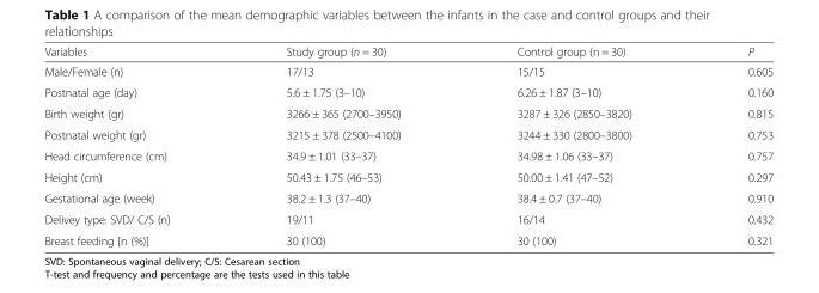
<table><thead><tr><td>Variables</td><td>Study group (n = 30)</td><td>Control group (n = 30)</td><td>P</td></tr></thead><tbody><tr><td>Male/Female (n)</td><td>17/13</td><td>15/15</td><td>0.605</td></tr><tr><td>Postnatal age (day)</td><td>5.6 ± 1.75 (3–10)</td><td>6.26 ± 1.87 (3–10)</td><td>0.160</td></tr><tr><td>Birth weight (gr)</td><td>3266 ± 365 (2700–3950)</td><td>3287 ± 326 (2850–3820)</td><td>0.815</td></tr><tr><td>Postnatal weight (gr)</td><td>3215 ± 378 (2500–4100)</td><td>3244 ± 330 (2800–3800)</td><td>0.753</td></tr><tr><td>Head circumference (cm)</td><td>34.9 ± 1.01 (33–37)</td><td>34.98 ± 1.06 (33–37)</td><td>0.757</td></tr><tr><td>Height (cm)</td><td>50.43 ± 1.75 (46–53)</td><td>50.00 ± 1.41 (47–52)</td><td>0.297</td></tr><tr><td>Gestational age (week)</td><td>38.2 ± 1.3 (37–40)</td><td>38.4 ± 0.7 (37–40)</td><td>0.910</td></tr><tr><td>Delivey type: SVD/ C/S (n)</td><td>19/11</td><td>16/14</td><td>0.432</td></tr><tr><td>Breast feeding [n (%)]</td><td>30 (100)</td><td>30 (100)</td><td>0.321</td></tr></tbody></table>